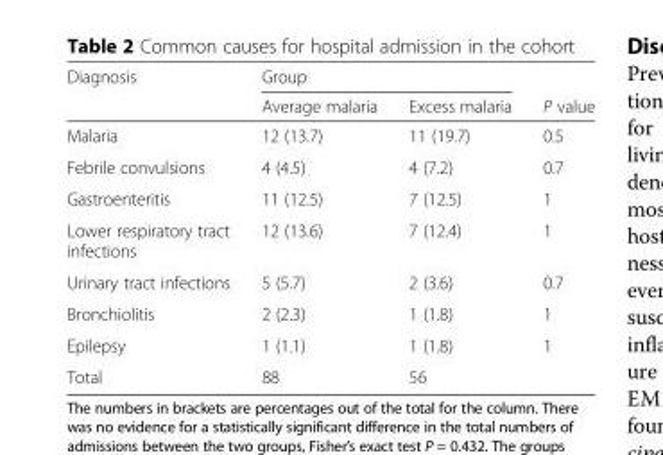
<table><thead><tr><td rowspan="2">Diagnosis</td><td colspan="2">Group</td><td rowspan="2">P value</td></tr><tr><td>Average malaria</td><td>Excess malaria</td></tr></thead><tbody><tr><td>Malaria</td><td>12 (13.7)</td><td>11 (19.7)</td><td>0.5</td></tr><tr><td>Febrile convulsions</td><td>4 (4.5)</td><td>4 (7.2)</td><td>0.7</td></tr><tr><td>Gastroenteritis</td><td>11 (12.5)</td><td>7 (12.5)</td><td>1</td></tr><tr><td>Lower respiratory tract infections</td><td>12 (13.6)</td><td>7 (12.4)</td><td>1</td></tr><tr><td>Urinary tract infections</td><td>5 (5.7)</td><td>2 (3.6)</td><td>0.7</td></tr><tr><td>Bronchiolitis</td><td>2 (2.3)</td><td>1 (1.8)</td><td>1</td></tr><tr><td>Epilepsy</td><td>1 (1.1)</td><td>1 (1.8)</td><td>1</td></tr><tr><td>Total</td><td>88</td><td>56</td><td></td></tr></tbody></table>